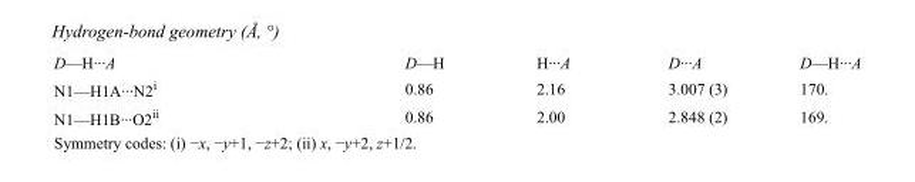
<table><tbody><tr><td>D—H···A</td><td>D—H</td><td>H···A</td><td>D···A</td><td>D—H···A</td></tr><tr><td>N1—H1A···N2<sup>i</sup></td><td>0.86</td><td>2.16</td><td>3.007 (3)</td><td>170.</td></tr><tr><td>N1—H1B···O2<sup>ii</sup></td><td>0.86</td><td>2.00</td><td>2.848 (2)</td><td>169.</td></tr></tbody></table>